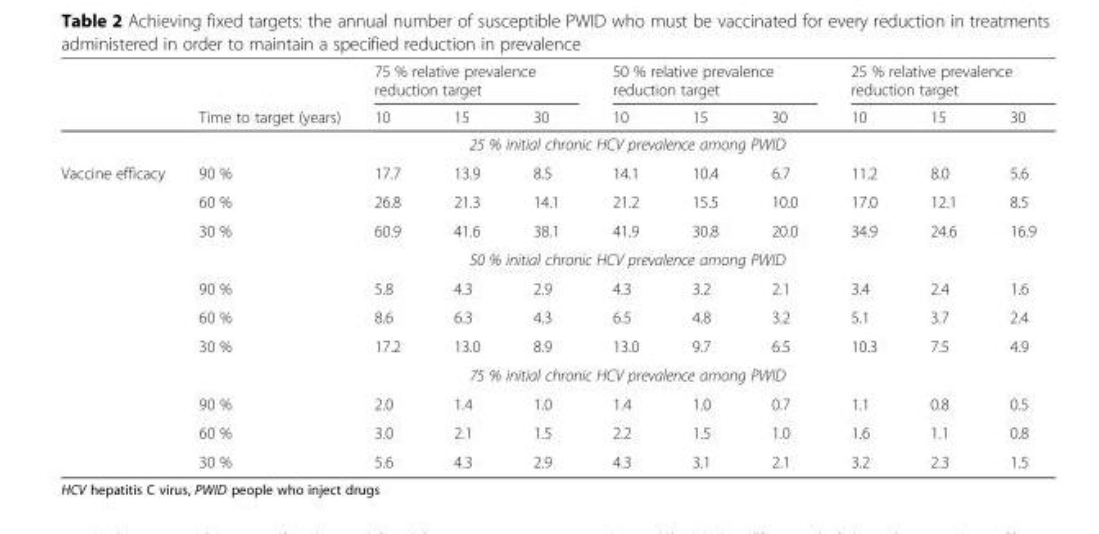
<table><thead><tr><td rowspan="2"></td><td rowspan="2">Time to target (years)</td><td colspan="3">75 % relative prevalence reduction target</td><td colspan="3">50 % relative prevalence reduction target</td><td colspan="3">25 % relative prevalence reduction target</td></tr><tr><td>10</td><td>15</td><td>30</td><td>10</td><td>15</td><td>30</td><td>10</td><td>15</td><td>30</td></tr></thead><tbody><tr><td></td><td colspan="10">25 % initial chronic HCV prevalence among PWID</td></tr><tr><td rowspan="11">Vaccine efficacy</td><td>90 %</td><td>17.7</td><td>13.9</td><td>8.5</td><td>14.1</td><td>10.4</td><td>6.7</td><td>11.2</td><td>8.0</td><td>5.6</td></tr><tr><td>60 %</td><td>26.8</td><td>21.3</td><td>14.1</td><td>21.2</td><td>15.5</td><td>10.0</td><td>17.0</td><td>12.1</td><td>8.5</td></tr><tr><td>30 %</td><td>60.9</td><td>41.6</td><td>38.1</td><td>41.9</td><td>30.8</td><td>20.0</td><td>34.9</td><td>24.6</td><td>16.9</td></tr><tr><td colspan="10">50 % initial chronic HCV prevalence among PWID</td></tr><tr><td>90 %</td><td>5.8</td><td>4.3</td><td>2.9</td><td>4.3</td><td>3.2</td><td>2.1</td><td>3.4</td><td>2.4</td><td>1.6</td></tr><tr><td>60 %</td><td>8.6</td><td>6.3</td><td>4.3</td><td>6.5</td><td>4.8</td><td>3.2</td><td>5.1</td><td>3.7</td><td>2.4</td></tr><tr><td>30 %</td><td>17.2</td><td>13.0</td><td>8.9</td><td>13.0</td><td>9.7</td><td>6.5</td><td>10.3</td><td>7.5</td><td>4.9</td></tr><tr><td colspan="10">75 % initial chronic HCV prevalence among PWID</td></tr><tr><td>90 %</td><td>2.0</td><td>1.4</td><td>1.0</td><td>1.4</td><td>1.0</td><td>0.7</td><td>1.1</td><td>0.8</td><td>0.5</td></tr><tr><td>60 %</td><td>3.0</td><td>2.1</td><td>1.5</td><td>2.2</td><td>1.5</td><td>1.0</td><td>1.6</td><td>1.1</td><td>0.8</td></tr><tr><td>30 %</td><td>5.6</td><td>4.3</td><td>2.9</td><td>4.3</td><td>3.1</td><td>2.1</td><td>3.2</td><td>2.3</td><td>1.5</td></tr></tbody></table>